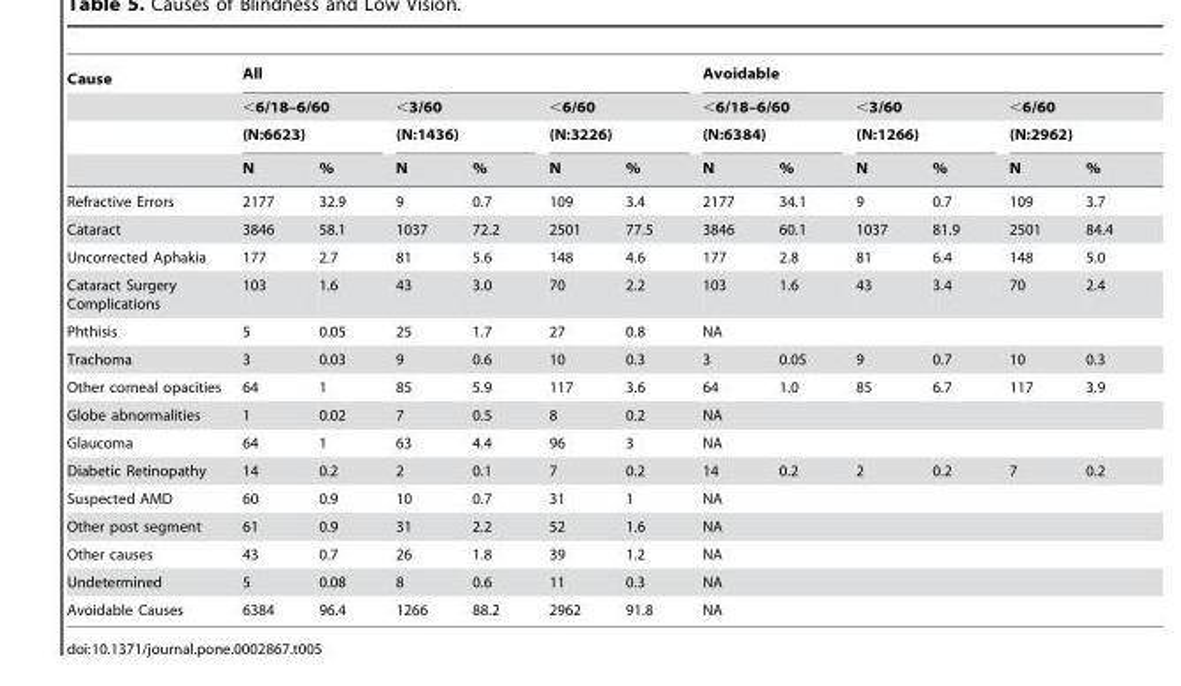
<table><thead><tr><td rowspan="4">Cause</td><td colspan="6">All</td><td colspan="6">Avoidable</td></tr><tr><td rowspan="2" colspan="2">&lt;6/18–6/60 (N:6623)</td><td rowspan="2" colspan="2">&lt;3/60 (N:1436)</td><td rowspan="2" colspan="2">&lt;6/60 (N:3226)</td><td rowspan="2" colspan="2">&lt;6/18–6/60 (N:6384)</td><td rowspan="2" colspan="2">&lt;3/60 (N:1266)</td><td rowspan="2" colspan="2">&lt;6/60 (N:2962)</td></tr><tr></tr><tr><td>N</td><td>%</td><td>N</td><td>%</td><td>N</td><td>%</td><td>N</td><td>%</td><td>N</td><td>%</td><td>N</td><td>%</td></tr></thead><tbody><tr><td>Refractive Errors</td><td>2177</td><td>32.9</td><td>9</td><td>0.7</td><td>109</td><td>3.4</td><td>2177</td><td>34.1</td><td>9</td><td>0.7</td><td>109</td><td>3.7</td></tr><tr><td>Cataract</td><td>3846</td><td>58.1</td><td>1037</td><td>72.2</td><td>2501</td><td>77.5</td><td>3846</td><td>60.1</td><td>1037</td><td>81.9</td><td>2501</td><td>84.4</td></tr><tr><td>Uncorrected Aphakia</td><td>177</td><td>2.7</td><td>81</td><td>5.6</td><td>148</td><td>4.6</td><td>177</td><td>2.8</td><td>81</td><td>6.4</td><td>148</td><td>5.0</td></tr><tr><td>Cataract Surgery Complications</td><td>103</td><td>1.6</td><td>43</td><td>3.0</td><td>70</td><td>2.2</td><td>103</td><td>1.6</td><td>43</td><td>3.4</td><td>70</td><td>2.4</td></tr><tr><td>Phthisis</td><td>5</td><td>0.05</td><td>25</td><td>1.7</td><td>27</td><td>0.8</td><td colspan="6">NA</td></tr><tr><td>Trachoma</td><td>3</td><td>0.03</td><td>9</td><td>0.6</td><td>10</td><td>0.3</td><td>3</td><td>0.05</td><td>9</td><td>0.7</td><td>10</td><td>0.3</td></tr><tr><td>Other corneal opacities</td><td>64</td><td>1</td><td>85</td><td>5.9</td><td>117</td><td>3.6</td><td>64</td><td>1.0</td><td>85</td><td>6.7</td><td>117</td><td>3.9</td></tr><tr><td>Globe abnormalities</td><td>1</td><td>0.02</td><td>7</td><td>0.5</td><td>8</td><td>0.2</td><td colspan="6">NA</td></tr><tr><td>Glaucoma</td><td>64</td><td>1</td><td>63</td><td>4.4</td><td>96</td><td>3</td><td colspan="6">NA</td></tr><tr><td>Diabetic Retinopathy</td><td>14</td><td>0.2</td><td>2</td><td>0.1</td><td>7</td><td>0.2</td><td>14</td><td>0.2</td><td>2</td><td>0.2</td><td>7</td><td>0.2</td></tr><tr><td>Suspected AMD</td><td>60</td><td>0.9</td><td>10</td><td>0.7</td><td>31</td><td>1</td><td colspan="6">NA</td></tr><tr><td>Other post segment</td><td>61</td><td>0.9</td><td>31</td><td>2.2</td><td>52</td><td>1.6</td><td colspan="6">NA</td></tr><tr><td>Other causes</td><td>43</td><td>0.7</td><td>26</td><td>1.8</td><td>39</td><td>1.2</td><td colspan="6">NA</td></tr><tr><td>Undetermined</td><td>5</td><td>0.08</td><td>8</td><td>0.6</td><td>11</td><td>0.3</td><td colspan="6">NA</td></tr><tr><td>Avoidable Causes</td><td>6384</td><td>96.4</td><td>1266</td><td>88.2</td><td>2962</td><td>91.8</td><td colspan="6">NA</td></tr></tbody></table>